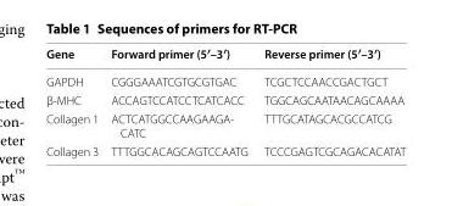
<table><thead><tr><td>Gene</td><td>Forward primer (5′–3′)</td><td>Reverse primer (5′–3′)</td></tr></thead><tbody><tr><td>GAPDH</td><td>CGGGAAATCGTGCGTGAC</td><td>TCGCTCCAACCGACTGCT</td></tr><tr><td>β-MHC</td><td>ACCAGTCCATCCTCATCACC</td><td>TGGCAGCAATAACAGCAAAA</td></tr><tr><td>Collagen 1</td><td>ACTCATGGCCAAGAAGA- CATC</td><td>TTTGCATAGCACGCCATCG</td></tr><tr><td>Collagen 3</td><td>TTTGGCACAGCAGTCCAATG</td><td>TCCCGAGTCGCAGACACATAT</td></tr></tbody></table>